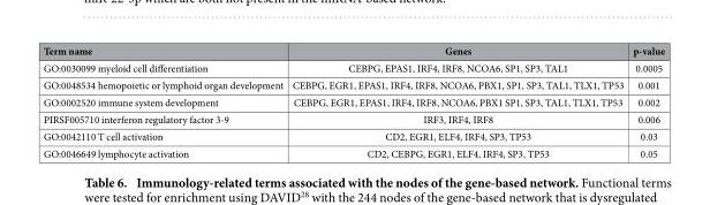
<table><thead><tr><td>Term name</td><td>Genes</td><td>p-value</td></tr></thead><tbody><tr><td>GO:0030099 myeloid cell differentiation</td><td>CEBPG, EPAS1, IRF4, IRF8, NCOA6, SP1, SP3, TAL1</td><td>0.0005</td></tr><tr><td>GO:0048534 hemopoietic or lymphoid organ development</td><td>CEBPG, EGR1, EPAS1, IRF4, IRF8, NCOA6, PBX1, SP1, SP3, TAL1, TLX1, TP53</td><td>0.001</td></tr><tr><td>GO:0002520 immune system development</td><td>CEBPG, EGR1, EPAS1, IRF4, IRF8, NCOA6, PBX1 SP1, SP3, TAL1, TLX1, TP53</td><td>0.002</td></tr><tr><td>PIRSF005710 interferon regulatory factor 3-9</td><td>IRF3, IRF4, IRF8</td><td>0.006</td></tr><tr><td>GO:0042110 T cell activation</td><td>CD2, EGR1, ELF4, IRF4, SP3, TP53</td><td>0.03</td></tr><tr><td>GO:0046649 lymphocyte activation</td><td>CD2, CEBPG, EGR1, ELF4, IRF4, SP3, TP53</td><td>0.05</td></tr></tbody></table>